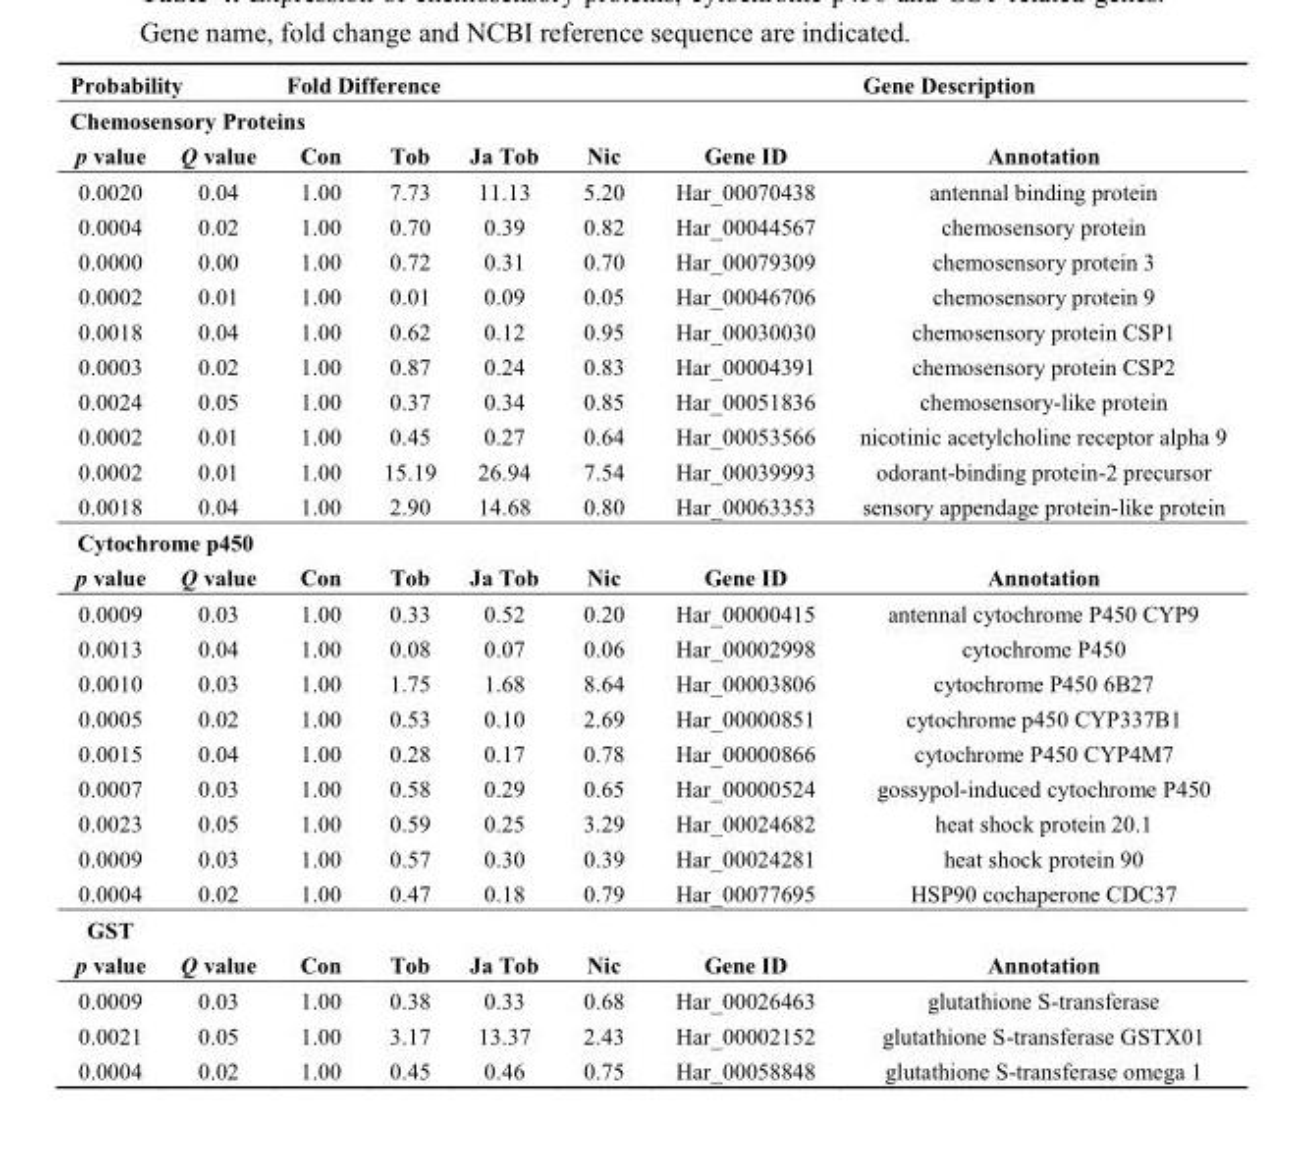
<table><thead><tr><td colspan="2">Probability</td><td colspan="4">Fold Difference</td><td colspan="2">Gene Description</td></tr><tr><td colspan="8">Chemosensory Proteins</td></tr><tr><td>p value</td><td>Q value</td><td>Con</td><td>Tob</td><td>Ja Tob</td><td>Nic</td><td>Gene ID</td><td>Annotation</td></tr></thead><tbody><tr><td>0.0020</td><td>0.04</td><td>1.00</td><td>7.73</td><td>11.13</td><td>5.20</td><td>Har_00070438</td><td>antennal binding protein</td></tr><tr><td>0.0004</td><td>0.02</td><td>1.00</td><td>0.70</td><td>0.39</td><td>0.82</td><td>Har_00044567</td><td>chemosensory protein</td></tr><tr><td>0.0000</td><td>0.00</td><td>1.00</td><td>0.72</td><td>0.31</td><td>0.70</td><td>Har_00079309</td><td>chemosensory protein 3</td></tr><tr><td>0.0002</td><td>0.01</td><td>1.00</td><td>0.01</td><td>0.09</td><td>0.05</td><td>Har_00046706</td><td>chemosensory protein 9</td></tr><tr><td>0.0018</td><td>0.04</td><td>1.00</td><td>0.62</td><td>0.12</td><td>0.95</td><td>Har_00030030</td><td>chemosensory protein CSP1</td></tr><tr><td>0.0003</td><td>0.02</td><td>1.00</td><td>0.87</td><td>0.24</td><td>0.83</td><td>Har_00004391</td><td>chemosensory protein CSP2</td></tr><tr><td>0.0024</td><td>0.05</td><td>1.00</td><td>0.37</td><td>0.34</td><td>0.85</td><td>Har_00051836</td><td>chemosensory-like protein</td></tr><tr><td>0.0002</td><td>0.01</td><td>1.00</td><td>0.45</td><td>0.27</td><td>0.64</td><td>Har_00053566</td><td>nicotinic acetylcholine receptor alpha 9</td></tr><tr><td>0.0002</td><td>0.01</td><td>1.00</td><td>15.19</td><td>26.94</td><td>7.54</td><td>Har_00039993</td><td>odorant-binding protein-2 precursor</td></tr><tr><td>0.0018</td><td>0.04</td><td>1.00</td><td>2.90</td><td>14.68</td><td>0.80</td><td>Har_00063353</td><td>sensory appendage protein-like protein</td></tr><tr><td colspan="8">Cytochrome p450</td></tr><tr><td>p value</td><td>Q value</td><td>Con</td><td>Tob</td><td>Ja Tob</td><td>Nic</td><td>Gene ID</td><td>Annotation</td></tr><tr><td>0.0009</td><td>0.03</td><td>1.00</td><td>0.33</td><td>0.52</td><td>0.20</td><td>Har_00000415</td><td>antennal cytochrome P450 CYP9</td></tr><tr><td>0.0013</td><td>0.04</td><td>1.00</td><td>0.08</td><td>0.07</td><td>0.06</td><td>Har_00002998</td><td>cytochrome P450</td></tr><tr><td>0.0010</td><td>0.03</td><td>1.00</td><td>1.75</td><td>1.68</td><td>8.64</td><td>Har_00003806</td><td>cytochrome P450 6B27</td></tr><tr><td>0.0005</td><td>0.02</td><td>1.00</td><td>0.53</td><td>0.10</td><td>2.69</td><td>Har_00000851</td><td>cytochrome p450 CYP337B1</td></tr><tr><td>0.0015</td><td>0.04</td><td>1.00</td><td>0.28</td><td>0.17</td><td>0.78</td><td>Har_00000866</td><td>cytochrome P450 CYP4M7</td></tr><tr><td>0.0007</td><td>0.03</td><td>1.00</td><td>0.58</td><td>0.29</td><td>0.65</td><td>Har_00000524</td><td>gossypol-induced cytochrome P450</td></tr><tr><td>0.0023</td><td>0.05</td><td>1.00</td><td>0.59</td><td>0.25</td><td>3.29</td><td>Har_00024682</td><td>heat shock protein 20.1</td></tr><tr><td>0.0009</td><td>0.03</td><td>1.00</td><td>0.57</td><td>0.30</td><td>0.39</td><td>Har_00024281</td><td>heat shock protein 90</td></tr><tr><td>0.0004</td><td>0.02</td><td>1.00</td><td>0.47</td><td>0.18</td><td>0.79</td><td>Har_00077695</td><td>HSP90 cochaperone CDC37</td></tr><tr><td colspan="8">GST</td></tr><tr><td>p value</td><td>Q value</td><td>Con</td><td>Tob</td><td>Ja Tob</td><td>Nic</td><td>Gene ID</td><td>Annotation</td></tr><tr><td>0.0009</td><td>0.03</td><td>1.00</td><td>0.38</td><td>0.33</td><td>0.68</td><td>Har_00026463</td><td>glutathione S-transferase</td></tr><tr><td>0.0021</td><td>0.05</td><td>1.00</td><td>3.17</td><td>13.37</td><td>2.43</td><td>Har_00002152</td><td>glutathione S-transferase GSTX01</td></tr><tr><td>0.0004</td><td>0.02</td><td>1.00</td><td>0.45</td><td>0.46</td><td>0.75</td><td>Har_00058848</td><td>glutathione S-transferase omega 1</td></tr></tbody></table>